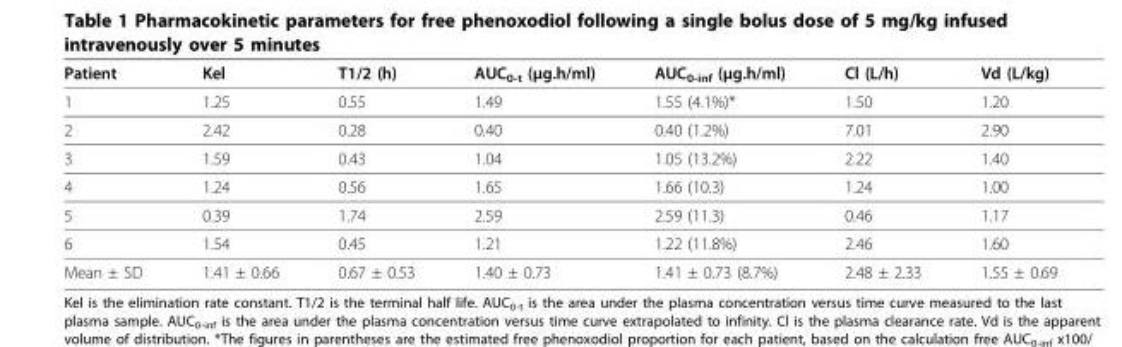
<table><thead><tr><td>Patient</td><td>Kel</td><td>T1/2 (h)</td><td>AUC<sub>0-t</sub> (μg.h/ml)</td><td>AUC<sub>0-inf</sub> (μg.h/ml)</td><td>Cl (L/h)</td><td>Vd (L/kg)</td></tr></thead><tbody><tr><td>1</td><td>1.25</td><td>0.55</td><td>1.49</td><td>1.55 (4.1%)*</td><td>1.50</td><td>1.20</td></tr><tr><td>2</td><td>2.42</td><td>0.28</td><td>0.40</td><td>0.40 (1.2%)</td><td>7.01</td><td>2.90</td></tr><tr><td>3</td><td>1.59</td><td>0.43</td><td>1.04</td><td>1.05 (13.2%)</td><td>2.22</td><td>1.40</td></tr><tr><td>4</td><td>1.24</td><td>0.56</td><td>1.65</td><td>1.66 (10.3)</td><td>1.24</td><td>1.00</td></tr><tr><td>5</td><td>0.39</td><td>1.74</td><td>2.59</td><td>2.59 (11.3)</td><td>0.46</td><td>1.17</td></tr><tr><td>6</td><td>1.54</td><td>0.45</td><td>1.21</td><td>1.22 (11.8%)</td><td>2.46</td><td>1.60</td></tr><tr><td>Mean ± SD</td><td>1.41 ± 0.66</td><td>0.67 ± 0.53</td><td>1.40 ± 0.73</td><td>1.41 ± 0.73 (8.7%)</td><td>2.48 ± 2.33</td><td>1.55 ± 0.69</td></tr></tbody></table>